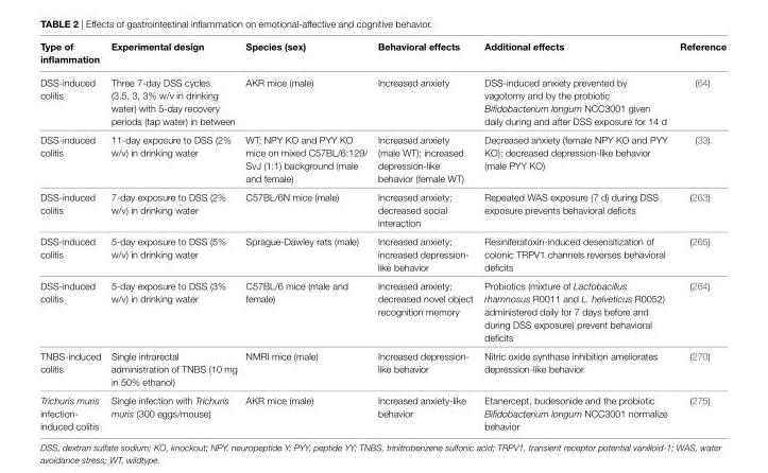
<table><thead><tr><td>Type of inflammation</td><td>experimental design</td><td>Species (sex)</td><td>Behavioral effects</td><td>Additional effects</td><td>Reference</td></tr></thead><tbody><tr><td>DSS-induced colitis</td><td>Three 7-day DSS cycles (3.5, 3, 3% w/v in drinking water) with 5-day recovery periods (tap water) in between</td><td>AKR mice (male)</td><td>Increased anxiety</td><td>DSS-induced anxiety prevented by vagotomy and by the probiotic Bifidobacterium longum NCC3001 given daily during and after DSS exposure for 14 d</td><td>(64)</td></tr><tr><td>DSS-induced colitis</td><td>11-day exposure to DSS (2% w/v) in drinking water</td><td>WT; NPY KO and PYY KO mice on mixed C57BL/6:129/ SvJ (1:1) background (male and female)</td><td>Increased anxiety (male WT); increased depression-like behavior (female WT)</td><td>Decreased anxiety (female NPY KO and PYY KO); decreased depression-like behavior (male PYY KO)</td><td>(33)</td></tr><tr><td>DSS-induced colitis</td><td>7-day exposure to DSS (2% w/v) in drinking water</td><td>C57BL/6N mice (male)</td><td>Increased anxiety; decreased social interaction</td><td>Repeated WAS exposure (7 d) during DSS exposure prevents behavioral deficits</td><td>(263)</td></tr><tr><td>DSS-induced colitis</td><td>5-day exposure to DSS (5% w/v) in drinking water</td><td>Sprague-Dawley rats (male)</td><td>Increased anxiety; increased depression- like behavior</td><td>Resiniferatoxin-induced desensitization of colonic TRPV1 channels reverses behavioral deficits</td><td>(265)</td></tr><tr><td>DSS-induced colitis</td><td>5-day exposure to DSS (3% w/v) in drinking water</td><td>C57BL/6 mice (male and female)</td><td>Increased anxiety; decreased novel object recognition memory</td><td>Probiotics (mixture of Lactobacillus rhamnosus R0011 and L. helveticus R0052) administered daily for 7 days before and during DSS exposure) prevent behavioral deficits</td><td>(264)</td></tr><tr><td>TNBS-induced colitis</td><td>Single intrarectal administration of TNBS (10 mg in 50% ethanol)</td><td>NMRI mice (male)</td><td>Increased depression- like behavior</td><td>Nitric oxide synthase inhibition ameliorates depression-like behavior</td><td>(270)</td></tr><tr><td>Trichuris muris infection- induced colitis</td><td>Single infection with Trichuris muris (300 eggs/mouse)</td><td>AKR mice (male)</td><td>Increased anxiety-like behavior</td><td>Etanercept, budesonide and the probiotic Bifidobacterium longum NCC3001 normalize behavior</td><td>(275)</td></tr></tbody></table>